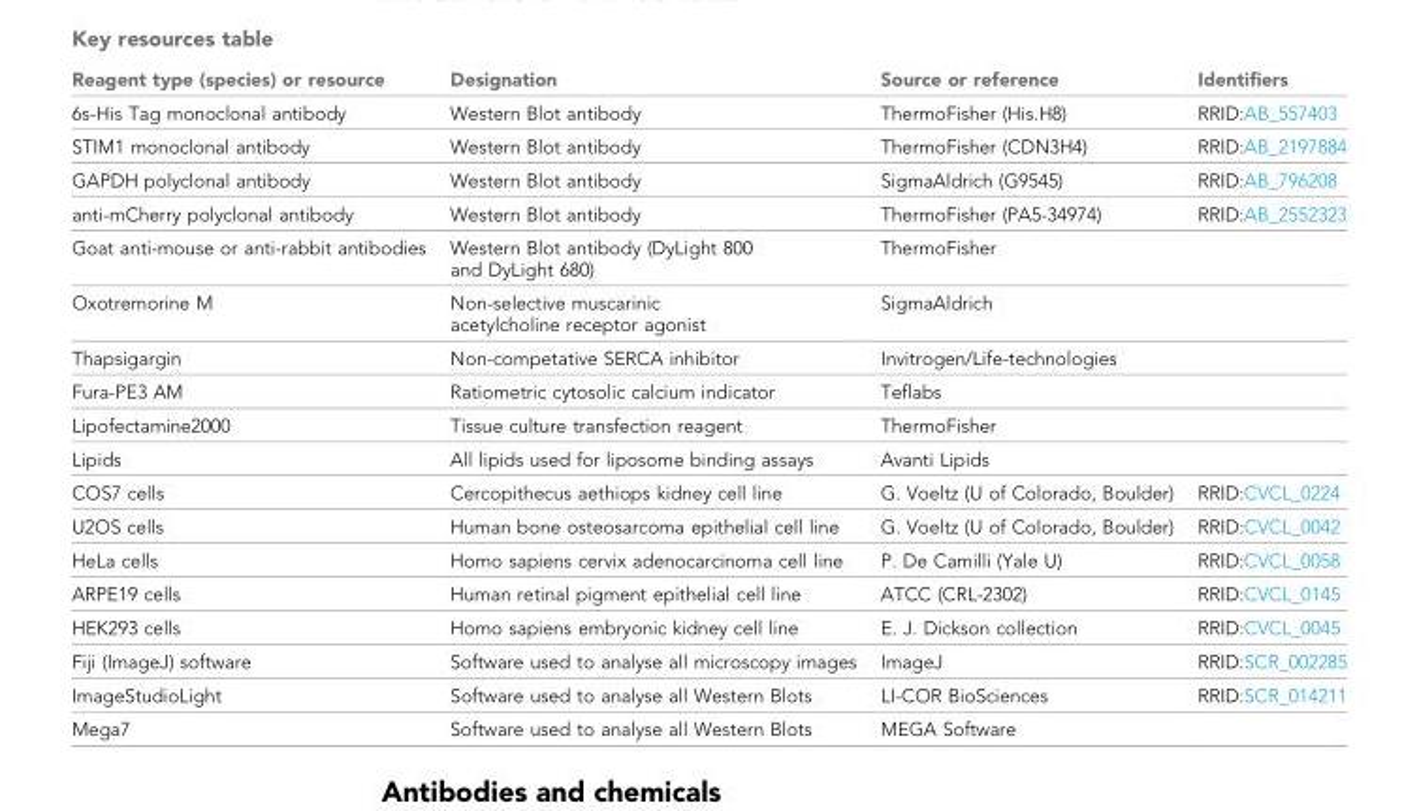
<table><thead><tr><td>Reagent type (species) or resource</td><td>Designation</td><td>Source or reference</td><td>Identifiers</td></tr></thead><tbody><tr><td>6s-His Tag monoclonal antibody</td><td>Western Blot antibody</td><td>ThermoFisher (His.H8)</td><td>RRID:AB_557403</td></tr><tr><td>STIM1 monoclonal antibody</td><td>Western Blot antibody</td><td>ThermoFisher (CDN3H4)</td><td>RRID:AB_2197884</td></tr><tr><td>GAPDH polyclonal antibody</td><td>Western Blot antibody</td><td>SigmaAldrich (G9545)</td><td>RRID:AB_796208</td></tr><tr><td>anti-mCherry polyclonal antibody</td><td>Western Blot antibody</td><td>ThermoFisher (PA5-34974)</td><td>RRID:AB_2552323</td></tr><tr><td>Goat anti-mouse or anti-rabbit antibodies</td><td>Western Blot antibody (DyLight 800 and DyLight 680)</td><td>ThermoFisher</td><td></td></tr><tr><td>Oxotremorine M</td><td>Non-selective muscarinic acetylcholine receptor agonist</td><td>SigmaAldrich</td><td></td></tr><tr><td>Thapsigargin</td><td>Non-competative SERCA inhibitor</td><td>Invitrogen/Life-technologies</td><td></td></tr><tr><td>Fura-PE3 AM</td><td>Ratiometric cytosolic calcium indicator</td><td>Teflabs</td><td></td></tr><tr><td>Lipofectamine2000</td><td>Tissue culture transfection reagent</td><td>ThermoFisher</td><td></td></tr><tr><td>Lipids</td><td>All lipids used for liposome binding assays</td><td>Avanti Lipids</td><td></td></tr><tr><td>COS7 cells</td><td>Cercopithecus aethiops kidney cell line</td><td>G. Voeltz (U of Colorado, Boulder)</td><td>RRID:CVCL_0224</td></tr><tr><td>U2OS cells</td><td>Human bone osteosarcoma epithelial cell line</td><td>G. Voeltz (U of Colorado, Boulder)</td><td>RRID:CVCL_0042</td></tr><tr><td>HeLa cells</td><td>Homo sapiens cervix adenocarcinoma cell line</td><td>P. De Camilli (Yale U)</td><td>RRID:CVCL_0058</td></tr><tr><td>ARPE19 cells</td><td>Human retinal pigment epithelial cell line</td><td>ATCC (CRL-2302)</td><td>RRID:CVCL_0145</td></tr><tr><td>HEK293 cells</td><td>Homo sapiens embryonic kidney cell line</td><td>E. J. Dickson collection</td><td>RRID:CVCL_0045</td></tr><tr><td>Fiji (ImageJ) software</td><td>Software used to analyse all microscopy images</td><td>ImageJ</td><td>RRID:SCR_002285</td></tr><tr><td>ImageStudioLight</td><td>Software used to analyse all Western Blots</td><td>LI-COR BioSciences</td><td>RRID:SCR_014211</td></tr><tr><td>Mega7</td><td>Software used to analyse all Western Blots</td><td>MEGA Software</td><td></td></tr></tbody></table>